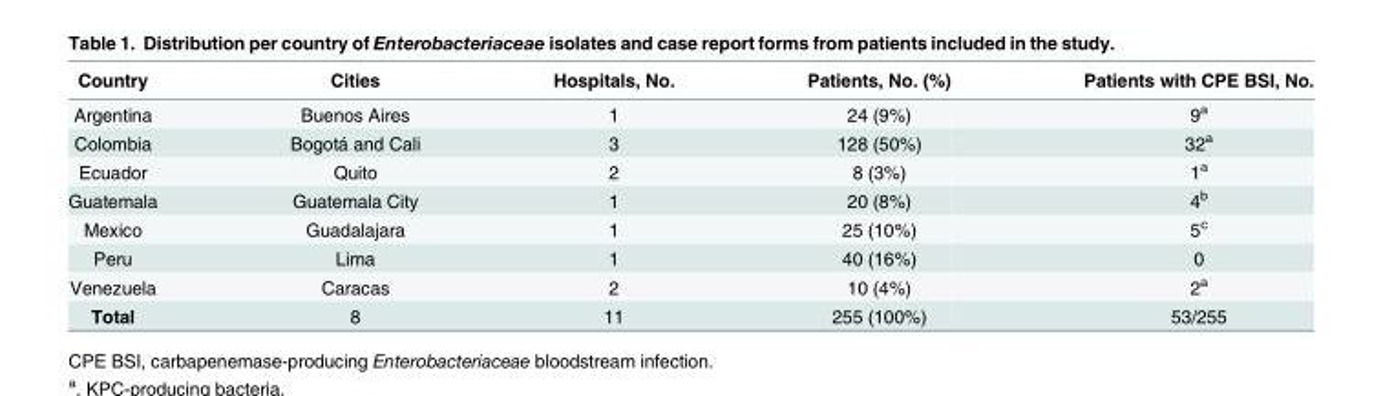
<table><thead><tr><td>Country</td><td>Cities</td><td>Hospitals, No.</td><td>Patients, No. (%)</td><td>Patients with CPE BSI, No.</td></tr></thead><tbody><tr><td>Argentina</td><td>Buenos Aires</td><td>1</td><td>24 (9%)</td><td>9<sup>a</sup></td></tr><tr><td>Colombia</td><td>Bogotá and Cali</td><td>3</td><td>128 (50%)</td><td>32<sup>a</sup></td></tr><tr><td>Ecuador</td><td>Quito</td><td>2</td><td>8 (3%)</td><td>1<sup>a</sup></td></tr><tr><td>Guatemala</td><td>Guatemala City</td><td>1</td><td>20 (8%)</td><td>4<sup>b</sup></td></tr><tr><td>Mexico</td><td>Guadalajara</td><td>1</td><td>25 (10%)</td><td>5<sup>c</sup></td></tr><tr><td>Peru</td><td>Lima</td><td>1</td><td>40 (16%)</td><td>0</td></tr><tr><td>Venezuela</td><td>Caracas</td><td>2</td><td>10 (4%)</td><td>2<sup>a</sup></td></tr><tr><td>Total</td><td>8</td><td>11</td><td>255 (100%)</td><td>53/255</td></tr></tbody></table>